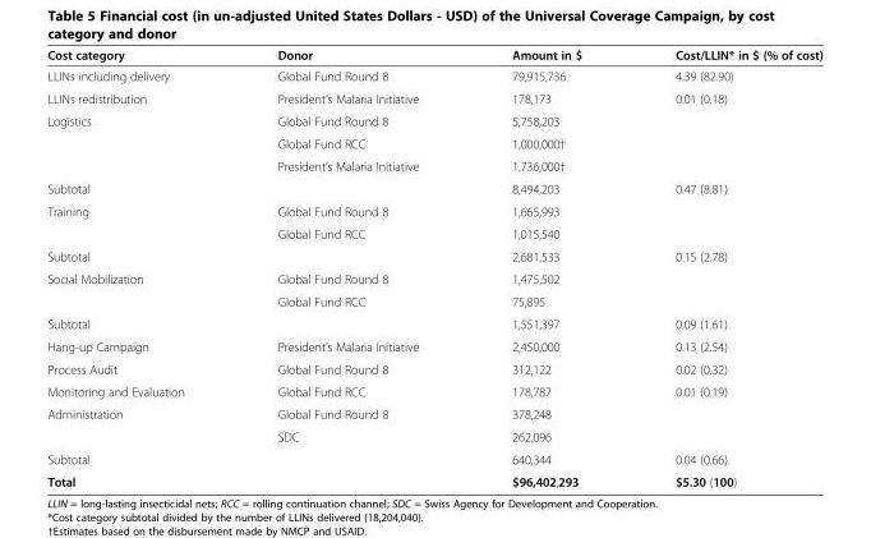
<table><thead><tr><td>Cost category</td><td>Donor</td><td>Amount in $</td><td>Cost/LLIN* in $ (% of cost)</td></tr></thead><tbody><tr><td>LLINs including delivery</td><td>Global Fund Round 8</td><td>79,915,736</td><td>4.39 (82.90)</td></tr><tr><td>LLINs redistribution</td><td>President’s Malaria Initiative</td><td>178,173</td><td>0.01 (0.18)</td></tr><tr><td rowspan="3">Logistics</td><td>Global Fund Round 8</td><td>5,758,203</td><td></td></tr><tr><td>Global Fund RCC</td><td>1,000,000†</td><td></td></tr><tr><td>President’s Malaria Initiative</td><td>1,736,000†</td><td></td></tr><tr><td>Subtotal</td><td></td><td>8,494,203</td><td>0.47 (8.81)</td></tr><tr><td rowspan="2">Training</td><td>Global Fund Round 8</td><td>1,665,993</td><td></td></tr><tr><td>Global Fund RCC</td><td>1,015,540</td><td></td></tr><tr><td>Subtotal</td><td></td><td>2,681,533</td><td>0.15 (2.78)</td></tr><tr><td rowspan="2">Social Mobilization</td><td>Global Fund Round 8</td><td>1,475,502</td><td></td></tr><tr><td>Global Fund RCC</td><td>75,895</td><td></td></tr><tr><td>Subtotal</td><td></td><td>1,551,397</td><td>0.09 (1.61)</td></tr><tr><td>Hang-up Campaign</td><td>President’s Malaria Initiative</td><td>2,450,000</td><td>0.13 (2.54)</td></tr><tr><td>Process Audit</td><td>Global Fund Round 8</td><td>312,122</td><td>0.02 (0.32)</td></tr><tr><td>Monitoring and Evaluation</td><td>Global Fund RCC</td><td>178,787</td><td>0.01 (0.19)</td></tr><tr><td rowspan="2">Administration</td><td>Global Fund Round 8</td><td>378,248</td><td></td></tr><tr><td>SDC</td><td>262,096</td><td></td></tr><tr><td>Subtotal</td><td></td><td>640,344</td><td>0.04 (0.66)</td></tr><tr><td>Total</td><td></td><td>$96,402,293</td><td>$5.30 (100)</td></tr></tbody></table>